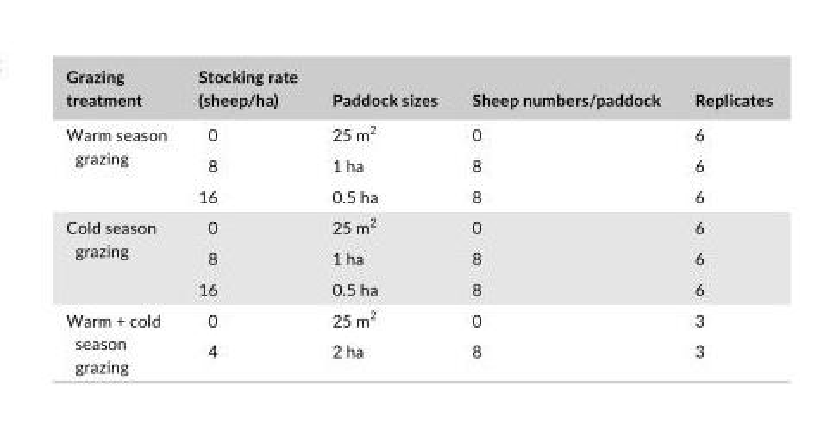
<table><thead><tr><td>Grazing treatment</td><td>Stocking rate (sheep/ha)</td><td>Paddock sizes</td><td>Sheep numbers/paddock</td><td>Replicates</td></tr></thead><tbody><tr><td rowspan="3">Warm season grazing</td><td>0</td><td>25 m<sup>2</sup></td><td>0</td><td>6</td></tr><tr><td>8</td><td>1 ha</td><td>8</td><td>6</td></tr><tr><td>16</td><td>0.5 ha</td><td>8</td><td>6</td></tr><tr><td rowspan="3">Cold season grazing</td><td>0</td><td>25 m<sup>2</sup></td><td>0</td><td>6</td></tr><tr><td>8</td><td>1 ha</td><td>8</td><td>6</td></tr><tr><td>16</td><td>0.5 ha</td><td>8</td><td>6</td></tr><tr><td rowspan="2">Warm + cold season grazing</td><td>0</td><td>25 m<sup>2</sup></td><td>0</td><td>3</td></tr><tr><td>4</td><td>2 ha</td><td>8</td><td>3</td></tr></tbody></table>